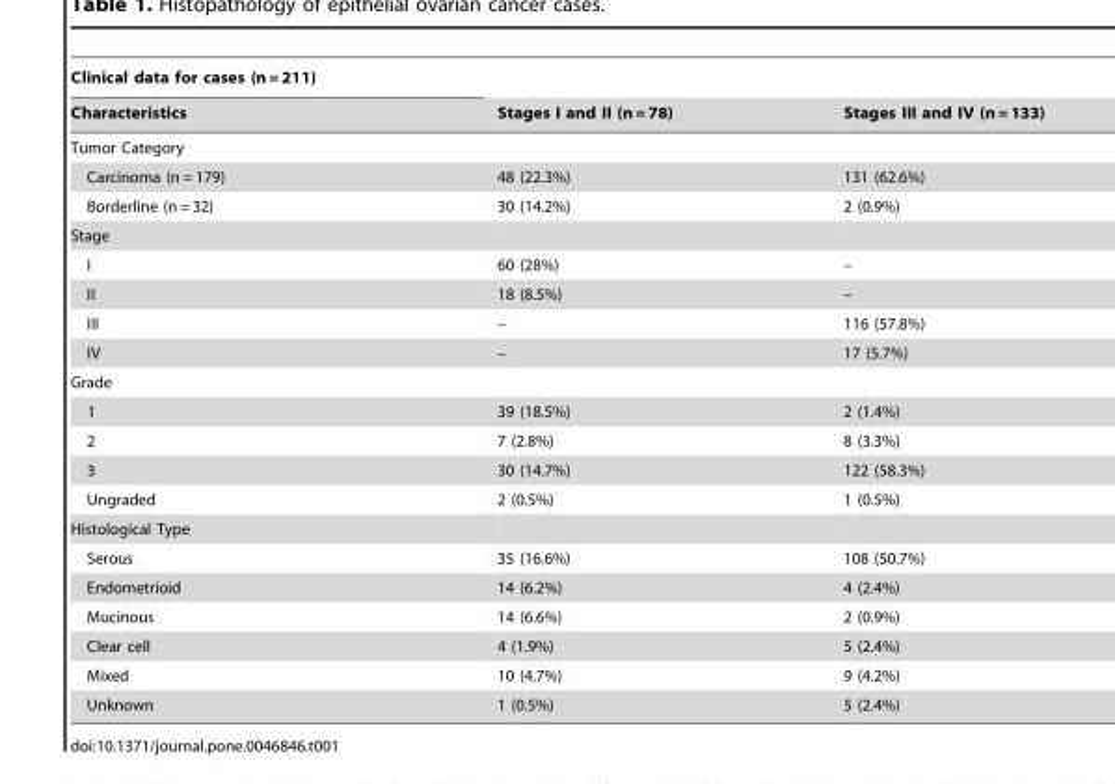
<table><thead><tr><td rowspan="2">Clinical data for cases (n = 211) Characteristics</td><td rowspan="2">Stages I and II (n = 78)</td><td rowspan="2">Stages III and IV (n = 133)</td></tr><tr></tr></thead><tbody><tr><td colspan="3">Tumor Category</td></tr><tr><td>Carcinoma (n = 179)</td><td>48 (22.3%)</td><td>131 (62.6%)</td></tr><tr><td>Borderline (n = 32)</td><td>30 (14.2%)</td><td>2 (0.9%)</td></tr><tr><td colspan="3">Stage</td></tr><tr><td>I</td><td>60 (28%)</td><td>–</td></tr><tr><td>II</td><td>18 (8.5%)</td><td>–</td></tr><tr><td>III</td><td>–</td><td>116 (57.8%)</td></tr><tr><td>IV</td><td>–</td><td>17 (5.7%)</td></tr><tr><td colspan="3">Grade</td></tr><tr><td>1</td><td>39 (18.5%)</td><td>2 (1.4%)</td></tr><tr><td>2</td><td>7 (2.8%)</td><td>8 (3.3%)</td></tr><tr><td>3</td><td>30 (14.7%)</td><td>122 (58.3%)</td></tr><tr><td>Ungraded</td><td>2 (0.5%)</td><td>1 (0.5%)</td></tr><tr><td colspan="3">Histological Type</td></tr><tr><td>Serous</td><td>35 (16.6%)</td><td>108 (50.7%)</td></tr><tr><td>Endometrioid</td><td>14 (6.2%)</td><td>4 (2.4%)</td></tr><tr><td>Mucinous</td><td>14 (6.6%)</td><td>2 (0.9%)</td></tr><tr><td>Clear cell</td><td>4 (1.9%)</td><td>5 (2.4%)</td></tr><tr><td>Mixed</td><td>10 (4.7%)</td><td>9 (4.2%)</td></tr><tr><td>Unknown</td><td>1 (0.5%)</td><td>5 (2.4%)</td></tr></tbody></table>